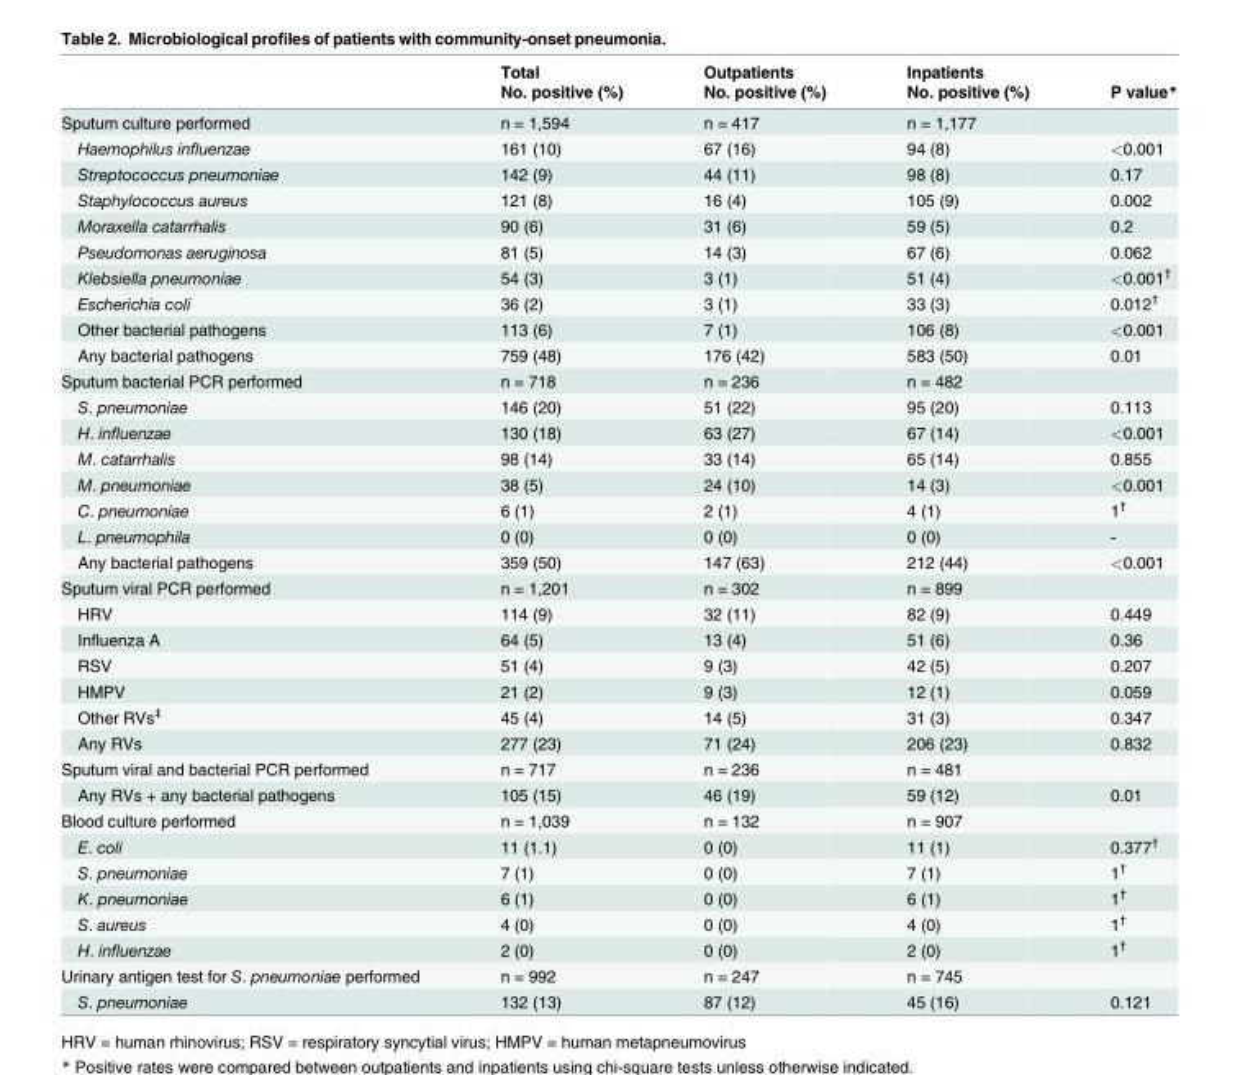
<table><thead><tr><td rowspan="2"></td><td rowspan="2">Total No. positive (%)</td><td rowspan="2">Outpatients No. positive (%)</td><td rowspan="2">Inpatients No. positive (%)</td><td rowspan="2">P value*</td></tr><tr></tr></thead><tbody><tr><td>Sputum culture performed</td><td>n = 1,594</td><td>n = 417</td><td>n = 1,177</td><td></td></tr><tr><td>Haemophilus influenzae</td><td>161 (10)</td><td>67 (16)</td><td>94 (8)</td><td>&lt;0.001</td></tr><tr><td>Streptococcus pneumoniae</td><td>142 (9)</td><td>44 (11)</td><td>98 (8)</td><td>0.17</td></tr><tr><td>Staphylococcus aureus</td><td>121 (8)</td><td>16 (4)</td><td>105 (9)</td><td>0.002</td></tr><tr><td>Moraxella catarrhalis</td><td>90 (6)</td><td>31 (6)</td><td>59 (5)</td><td>0.2</td></tr><tr><td>Pseudomonas aeruginosa</td><td>81 (5)</td><td>14 (3)</td><td>67 (6)</td><td>0.062</td></tr><tr><td>Klebsiella pneumoniae</td><td>54 (3)</td><td>3 (1)</td><td>51 (4)</td><td>&lt;0.001<sup>†</sup></td></tr><tr><td>Escherichia coli</td><td>36 (2)</td><td>3 (1)</td><td>33 (3)</td><td>0.012<sup>†</sup></td></tr><tr><td>Other bacterial pathogens</td><td>113 (6)</td><td>7 (1)</td><td>106 (8)</td><td>&lt;0.001</td></tr><tr><td>Any bacterial pathogens</td><td>759 (48)</td><td>176 (42)</td><td>583 (50)</td><td>0.01</td></tr><tr><td>Sputum bacterial PCR performed</td><td>n = 718</td><td>n = 236</td><td>n = 482</td><td></td></tr><tr><td>S. pneumoniae</td><td>146 (20)</td><td>51 (22)</td><td>95 (20)</td><td>0.113</td></tr><tr><td>H. influenzae</td><td>130 (18)</td><td>63 (27)</td><td>67 (14)</td><td>&lt;0.001</td></tr><tr><td>M. catarrhalis</td><td>98 (14)</td><td>33 (14)</td><td>65 (14)</td><td>0.855</td></tr><tr><td>M. pneumoniae</td><td>38 (5)</td><td>24 (10)</td><td>14 (3)</td><td>&lt;0.001</td></tr><tr><td>C. pneumoniae</td><td>6 (1)</td><td>2 (1)</td><td>4 (1)</td><td>1<sup>†</sup></td></tr><tr><td>L. pneumophila</td><td>0 (0)</td><td>0 (0)</td><td>0 (0)</td><td>-</td></tr><tr><td>Any bacterial pathogens</td><td>359 (50)</td><td>147 (63)</td><td>212 (44)</td><td>&lt;0.001</td></tr><tr><td>Sputum viral PCR performed</td><td>n = 1,201</td><td>n = 302</td><td>n = 899</td><td></td></tr><tr><td>HRV</td><td>114 (9)</td><td>32 (11)</td><td>82 (9)</td><td>0.449</td></tr><tr><td>Influenza A</td><td>64 (5)</td><td>13 (4)</td><td>51 (6)</td><td>0.36</td></tr><tr><td>RSV</td><td>51 (4)</td><td>9 (3)</td><td>42 (5)</td><td>0.207</td></tr><tr><td>HMPV</td><td>21 (2)</td><td>9 (3)</td><td>12 (1)</td><td>0.059</td></tr><tr><td>Other RVs<sup>‡</sup></td><td>45 (4)</td><td>14 (5)</td><td>31 (3)</td><td>0.347</td></tr><tr><td>Any RVs</td><td>277 (23)</td><td>71 (24)</td><td>206 (23)</td><td>0.832</td></tr><tr><td>Sputum viral and bacterial PCR performed</td><td>n = 717</td><td>n = 236</td><td>n = 481</td><td></td></tr><tr><td>Any RVs + any bacterial pathogens</td><td>105 (15)</td><td>46 (19)</td><td>59 (12)</td><td>0.01</td></tr><tr><td>Blood culture performed</td><td>n = 1,039</td><td>n = 132</td><td>n = 907</td><td></td></tr><tr><td>E. coli</td><td>11 (1.1)</td><td>0 (0)</td><td>11 (1)</td><td>0.377<sup>†</sup></td></tr><tr><td>S. pneumoniae</td><td>7 (1)</td><td>0 (0)</td><td>7 (1)</td><td>1<sup>†</sup></td></tr><tr><td>K. pneumoniae</td><td>6 (1)</td><td>0 (0)</td><td>6 (1)</td><td>1<sup>†</sup></td></tr><tr><td>S. aureus</td><td>4 (0)</td><td>0 (0)</td><td>4 (0)</td><td>1<sup>†</sup></td></tr><tr><td>H. influenzae</td><td>2 (0)</td><td>0 (0)</td><td>2 (0)</td><td>1<sup>†</sup></td></tr><tr><td>Urinary antigen test for S. pneumoniae performed</td><td>n = 992</td><td>n = 247</td><td>n = 745</td><td></td></tr><tr><td>S. pneumoniae</td><td>132 (13)</td><td>87 (12)</td><td>45 (16)</td><td>0.121</td></tr></tbody></table>